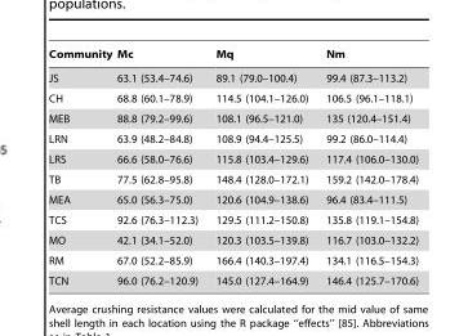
<table><thead><tr><td>Community</td><td>Mc</td><td>Mq</td><td>Nm</td></tr></thead><tbody><tr><td>JS</td><td>63.1 (53.4–74.6)</td><td>89.1 (79.0–100.4)</td><td>99.4 (87.3–113.2)</td></tr><tr><td>CH</td><td>68.8 (60.1–78.9)</td><td>114.5 (104.1–126.0)</td><td>106.5 (96.1–118.1)</td></tr><tr><td>MEB</td><td>88.8 (79.2–99.6)</td><td>108.1 (96.5–121.0)</td><td>135 (120.4–151.4)</td></tr><tr><td>LRN</td><td>63.9 (48.2–84.8)</td><td>108.9 (94.4–125.5)</td><td>99.2 (86.0–114.4)</td></tr><tr><td>LRS</td><td>66.6 (58.0–76.6)</td><td>115.8 (103.4–129.6)</td><td>117.4 (106.0–130.0)</td></tr><tr><td>TB</td><td>77.5 (62.8–95.8)</td><td>148.4 (128.0–172.1)</td><td>159.2 (142.0–178.4)</td></tr><tr><td>MEA</td><td>65.0 (56.3–75.0)</td><td>120.6 (104.9–138.6)</td><td>96.4 (83.4–111.5)</td></tr><tr><td>TCS</td><td>92.6 (76.3–112.3)</td><td>129.5 (111.2–150.8)</td><td>135.8 (119.1–154.8)</td></tr><tr><td>MO</td><td>42.1 (34.1–52.0)</td><td>120.3 (103.5–139.8)</td><td>116.7 (103.0–132.2)</td></tr><tr><td>RM</td><td>67.0 (52.2–85.9)</td><td>166.4 (140.3–197.4)</td><td>134.1 (116.5–154.3)</td></tr><tr><td>TCN</td><td>96.0 (76.2–120.9)</td><td>145.0 (127.4–164.9)</td><td>146.4 (125.7–170.6)</td></tr></tbody></table>